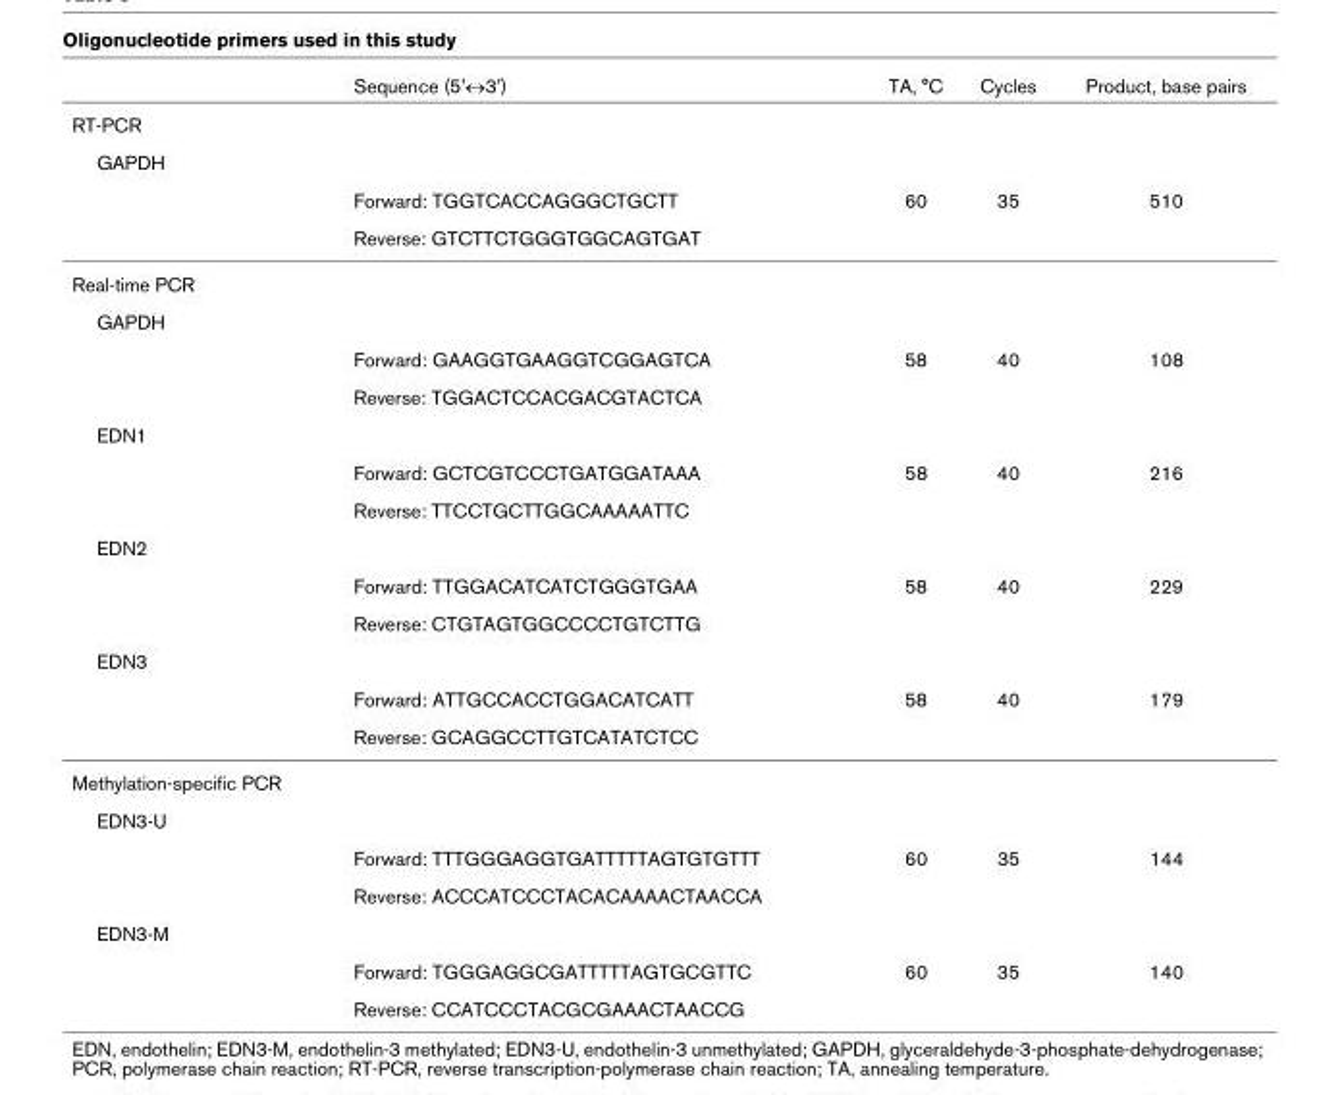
<table><thead><tr><td></td><td>Sequence (5&#x27;↔3&#x27;)</td><td>TA, °C</td><td>Cycles</td><td>Product, base pairs</td></tr></thead><tbody><tr><td colspan="5">RT-PCR</td></tr><tr><td colspan="5">GAPDH</td></tr><tr><td></td><td>Forward: TGGTCACCAGGGCTGCTT</td><td>60</td><td>35</td><td>510</td></tr><tr><td></td><td>Reverse: GTCTTCTGGGTGGCAGTGAT</td><td></td><td></td><td></td></tr><tr><td colspan="5">Real-time PCR</td></tr><tr><td colspan="5">GAPDH</td></tr><tr><td></td><td>Forward: GAAGGTGAAGGTCGGAGTCA</td><td>58</td><td>40</td><td>108</td></tr><tr><td></td><td>Reverse: TGGACTCCACGACGTACTCA</td><td></td><td></td><td></td></tr><tr><td colspan="5">EDN1</td></tr><tr><td></td><td>Forward: GCTCGTCCCTGATGGATAAA</td><td>58</td><td>40</td><td>216</td></tr><tr><td></td><td>Reverse: TTCCTGCTTGGCAAAAATTC</td><td></td><td></td><td></td></tr><tr><td colspan="5">EDN2</td></tr><tr><td></td><td>Forward: TTGGACATCATCTGGGTGAA</td><td>58</td><td>40</td><td>229</td></tr><tr><td></td><td>Reverse: CTGTAGTGGCCCCTGTCTTG</td><td></td><td></td><td></td></tr><tr><td colspan="5">EDN3</td></tr><tr><td></td><td>Forward: ATTGCCACCTGGACATCATT</td><td>58</td><td>40</td><td>179</td></tr><tr><td></td><td>Reverse: GCAGGCCTTGTCATATCTCC</td><td></td><td></td><td></td></tr><tr><td colspan="5">Methylation-specific PCR</td></tr><tr><td colspan="5">EDN3-U</td></tr><tr><td></td><td>Forward: TTTGGGAGGTGATTTTTAGTGTGTTT</td><td>60</td><td>35</td><td>144</td></tr><tr><td></td><td>Reverse: ACCCATCCCTACACAAAACTAACCA</td><td></td><td></td><td></td></tr><tr><td colspan="5">EDN3-M</td></tr><tr><td></td><td>Forward: TGGGAGGCGATTTTTAGTGCGTTC</td><td>60</td><td>35</td><td>140</td></tr><tr><td></td><td>Reverse: CCATCCCTACGCGAAACTAACCG</td><td></td><td></td><td></td></tr></tbody></table>